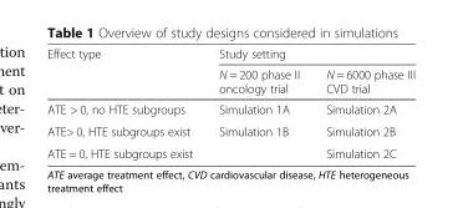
<table><thead><tr><td rowspan="2">Effect type</td><td colspan="2">Study setting</td></tr><tr><td>N = 200 phase II oncology trial</td><td>N = 6000 phase III CVD trial</td></tr></thead><tbody><tr><td>ATE &gt; 0, no HTE subgroups</td><td>Simulation 1A</td><td>Simulation 2A</td></tr><tr><td>ATE&gt; 0, HTE subgroups exist</td><td>Simulation 1B</td><td>Simulation 2B</td></tr><tr><td>ATE = 0, HTE subgroups exist</td><td></td><td>Simulation 2C</td></tr></tbody></table>